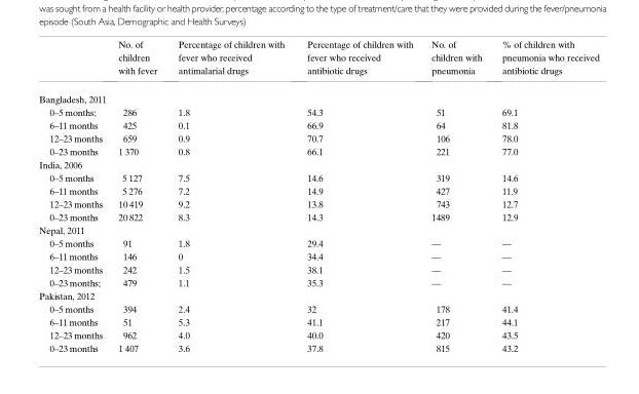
<table><thead><tr><td></td><td>No. of children with fever</td><td>Percentage of children with fever who received antimalarial drugs</td><td>Percentage of children with fever who received antibiotic drugs</td><td>No. of children with pneumonia</td><td>% of children with pneumonia who received antibiotic drugs</td></tr></thead><tbody><tr><td colspan="6">Bangladesh, 2011</td></tr><tr><td>0–5 months;</td><td>286</td><td>1.8</td><td>54.3</td><td>51</td><td>69.1</td></tr><tr><td>6–11 months</td><td>425</td><td>0.1</td><td>66.9</td><td>64</td><td>81.8</td></tr><tr><td>12–23 months</td><td>659</td><td>0.9</td><td>70.7</td><td>106</td><td>78.0</td></tr><tr><td>0–23 months</td><td>1 370</td><td>0.8</td><td>66.1</td><td>221</td><td>77.0</td></tr><tr><td colspan="6">India, 2006</td></tr><tr><td>0–5 months</td><td>5 127</td><td>7.5</td><td>14.6</td><td>319</td><td>14.6</td></tr><tr><td>6–11 months</td><td>5 276</td><td>7.2</td><td>14.9</td><td>427</td><td>11.9</td></tr><tr><td>12–23 months</td><td>10 419</td><td>9.2</td><td>13.8</td><td>743</td><td>12.7</td></tr><tr><td>0–23 months</td><td>20 822</td><td>8.3</td><td>14.3</td><td>1489</td><td>12.9</td></tr><tr><td colspan="6">Nepal, 2011</td></tr><tr><td>0–5 months</td><td>91</td><td>1.8</td><td>29.4</td><td>—</td><td>—</td></tr><tr><td>6–11 months</td><td>146</td><td>0</td><td>34.4</td><td>—</td><td>—</td></tr><tr><td>12–23 months</td><td>242</td><td>1.5</td><td>38.1</td><td>—</td><td>—</td></tr><tr><td>0–23 months;</td><td>479</td><td>1.1</td><td>35.3</td><td>—</td><td>—</td></tr><tr><td colspan="6">Pakistan, 2012</td></tr><tr><td>0–5 months</td><td>394</td><td>2.4</td><td>32</td><td>178</td><td>41.4</td></tr><tr><td>6–11 months</td><td>51</td><td>5.3</td><td>41.1</td><td>217</td><td>44.1</td></tr><tr><td>12–23 months</td><td>962</td><td>4.0</td><td>40.0</td><td>420</td><td>43.5</td></tr><tr><td>0–23 months</td><td>1 407</td><td>3.6</td><td>37.8</td><td>815</td><td>43.2</td></tr></tbody></table>